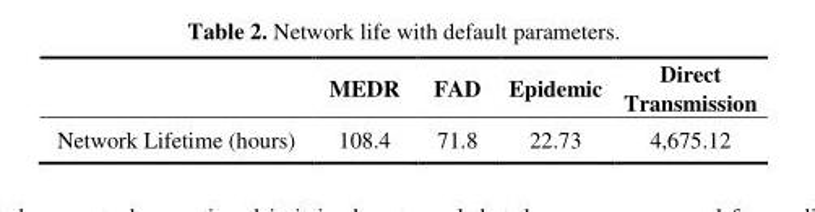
<table><thead><tr><td></td><td>MEDR</td><td>FAD</td><td>Epidemic</td><td>Direct Transmission</td></tr></thead><tbody><tr><td>Network Lifetime (hours)</td><td>108.4</td><td>71.8</td><td>22.73</td><td>4,675.12</td></tr></tbody></table>